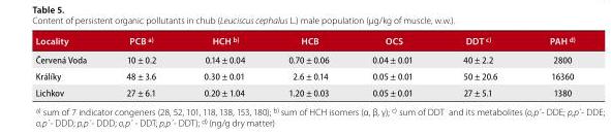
<table><thead><tr><td>locality</td><td>PCB <sup>a)</sup></td><td>HCH <sup>b)</sup></td><td>HCB</td><td>oCS</td><td>ddT <sup>c)</sup></td><td>PaH <sup>d)</sup></td></tr></thead><tbody><tr><td>Červená Voda</td><td>10 ± 0.2</td><td>0.14 ± 0.04</td><td>0.70 ± 0.06</td><td>0.04 ± 0.01</td><td>40 ± 2.2</td><td>2800</td></tr><tr><td>Králíky</td><td>48 ± 3.6</td><td>0.30 ± 0.01</td><td>2.6 ± 0.14</td><td>0.05 ± 0.01</td><td>50 ± 20.6</td><td>16360</td></tr><tr><td>Lichkov</td><td>27 ± 6.1</td><td>0.20 ± 1.04</td><td>1.20 ± 0.03</td><td>0.05 ± 0.01</td><td>27 ± 5.1</td><td>1380</td></tr></tbody></table>